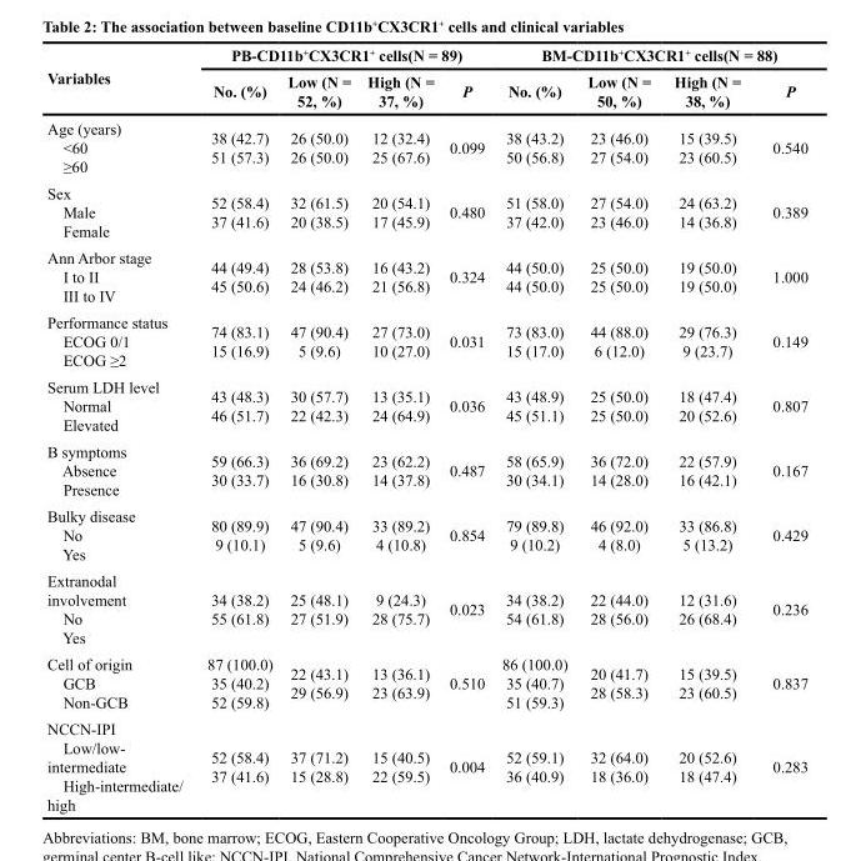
<table><thead><tr><td rowspan="2">Variables</td><td colspan="4">PB-CD11b<sup>+</sup>CX3CR1<sup>+</sup> cells(N = 89)</td><td colspan="4">BM-CD11b<sup>+</sup>CX3CR1<sup>+</sup> cells(N = 88)</td></tr><tr><td>No. (%)</td><td>Low (N = 52, %)</td><td>High (N = 37, %)</td><td>P</td><td>No. (%)</td><td>Low (N = 50, %)</td><td>High (N = 38, %)</td><td>P</td></tr></thead><tbody><tr><td>Age (years) &lt;60 ≥60</td><td>38 (42.7) 51 (57.3)</td><td>26 (50.0) 26 (50.0)</td><td>12 (32.4) 25 (67.6)</td><td>0.099</td><td>38 (43.2) 50 (56.8)</td><td>23 (46.0) 27 (54.0)</td><td>15 (39.5) 23 (60.5)</td><td>0.540</td></tr><tr><td>Sex Male Female</td><td>52 (58.4) 37 (41.6)</td><td>32 (61.5) 20 (38.5)</td><td>20 (54.1) 17 (45.9)</td><td>0.480</td><td>51 (58.0) 37 (42.0)</td><td>27 (54.0) 23 (46.0)</td><td>24 (63.2) 14 (36.8)</td><td>0.389</td></tr><tr><td>Ann Arbor stage I to II III to IV</td><td>44 (49.4) 45 (50.6)</td><td>28 (53.8) 24 (46.2)</td><td>16 (43.2) 21 (56.8)</td><td>0.324</td><td>44 (50.0) 44 (50.0)</td><td>25 (50.0) 25 (50.0)</td><td>19 (50.0) 19 (50.0)</td><td>1.000</td></tr><tr><td>Performance status ECOG 0/1 ECOG ≥2</td><td>74 (83.1) 15 (16.9)</td><td>47 (90.4) 5 (9.6)</td><td>27 (73.0) 10 (27.0)</td><td>0.031</td><td>73 (83.0) 15 (17.0)</td><td>44 (88.0) 6 (12.0)</td><td>29 (76.3) 9 (23.7)</td><td>0.149</td></tr><tr><td>Serum LDH level Normal Elevated</td><td>43 (48.3) 46 (51.7)</td><td>30 (57.7) 22 (42.3)</td><td>13 (35.1) 24 (64.9)</td><td>0.036</td><td>43 (48.9) 45 (51.1)</td><td>25 (50.0) 25 (50.0)</td><td>18 (47.4) 20 (52.6)</td><td>0.807</td></tr><tr><td>B symptoms Absence Presence</td><td>59 (66.3) 30 (33.7)</td><td>36 (69.2) 16 (30.8)</td><td>23 (62.2) 14 (37.8)</td><td>0.487</td><td>58 (65.9) 30 (34.1)</td><td>36 (72.0) 14 (28.0)</td><td>22 (57.9) 16 (42.1)</td><td>0.167</td></tr><tr><td>Bulky disease No Yes</td><td>80 (89.9) 9 (10.1)</td><td>47 (90.4) 5 (9.6)</td><td>33 (89.2) 4 (10.8)</td><td>0.854</td><td>79 (89.8) 9 (10.2)</td><td>46 (92.0) 4 (8.0)</td><td>33 (86.8) 5 (13.2)</td><td>0.429</td></tr><tr><td>Extranodal involvement No Yes</td><td>34 (38.2) 55 (61.8)</td><td>25 (48.1) 27 (51.9)</td><td>9 (24.3) 28 (75.7)</td><td>0.023</td><td>34 (38.2) 54 (61.8)</td><td>22 (44.0) 28 (56.0)</td><td>12 (31.6) 26 (68.4)</td><td>0.236</td></tr><tr><td>Cell of origin GCB Non-GCB</td><td>87 (100.0) 35 (40.2) 52 (59.8)</td><td>22 (43.1) 29 (56.9)</td><td>13 (36.1) 23 (63.9)</td><td>0.510</td><td>86 (100.0) 35 (40.7) 51 (59.3)</td><td>20 (41.7) 28 (58.3)</td><td>15 (39.5) 23 (60.5)</td><td>0.837</td></tr><tr><td>NCCN-IPI Low/low- intermediate High-intermediate/ high</td><td>52 (58.4) 37 (41.6)</td><td>37 (71.2) 15 (28.8)</td><td>15 (40.5) 22 (59.5)</td><td>0.004</td><td>52 (59.1) 36 (40.9)</td><td>32 (64.0) 18 (36.0)</td><td>20 (52.6) 18 (47.4)</td><td>0.283</td></tr></tbody></table>